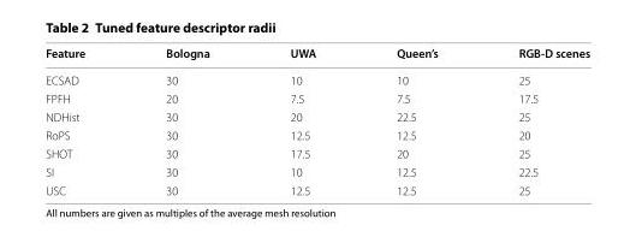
<table><thead><tr><td>Feature</td><td>Bologna</td><td>UWA</td><td>Queen’s</td><td>RGB-D scenes</td></tr></thead><tbody><tr><td>ECSAD</td><td>30</td><td>10</td><td>10</td><td>25</td></tr><tr><td>FPFH</td><td>20</td><td>7.5</td><td>7.5</td><td>17.5</td></tr><tr><td>NDHist</td><td>30</td><td>20</td><td>22.5</td><td>25</td></tr><tr><td>RoPS</td><td>30</td><td>12.5</td><td>12.5</td><td>20</td></tr><tr><td>SHOT</td><td>30</td><td>17.5</td><td>20</td><td>25</td></tr><tr><td>SI</td><td>30</td><td>10</td><td>12.5</td><td>22.5</td></tr><tr><td>USC</td><td>30</td><td>12.5</td><td>12.5</td><td>25</td></tr></tbody></table>